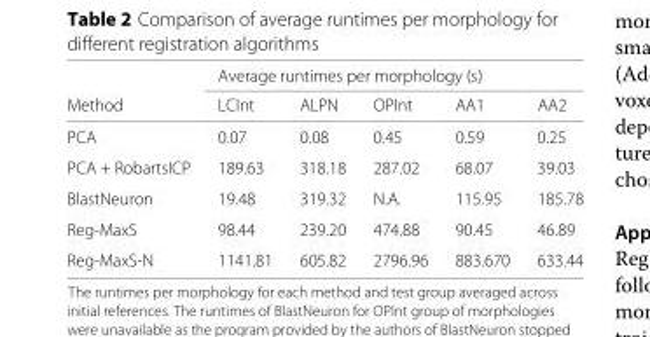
<table><thead><tr><td rowspan="2">Method</td><td colspan="5">Average runtimes per morphology (s)</td></tr><tr><td>LCInt</td><td>ALPN</td><td>OPInt</td><td>AA1</td><td>AA2</td></tr></thead><tbody><tr><td>PCA</td><td>0.07</td><td>0.08</td><td>0.45</td><td>0.59</td><td>0.25</td></tr><tr><td>PCA + RobartsICP</td><td>189.63</td><td>318.18</td><td>287.02</td><td>68.07</td><td>39.03</td></tr><tr><td>BlastNeuron</td><td>19.48</td><td>319.32</td><td>N.A.</td><td>115.95</td><td>185.78</td></tr><tr><td>Reg-MaxS</td><td>98.44</td><td>239.20</td><td>474.88</td><td>90.45</td><td>46.89</td></tr><tr><td>Reg-MaxS-N</td><td>1141.81</td><td>605.82</td><td>2796.96</td><td>883.670</td><td>633.44</td></tr></tbody></table>